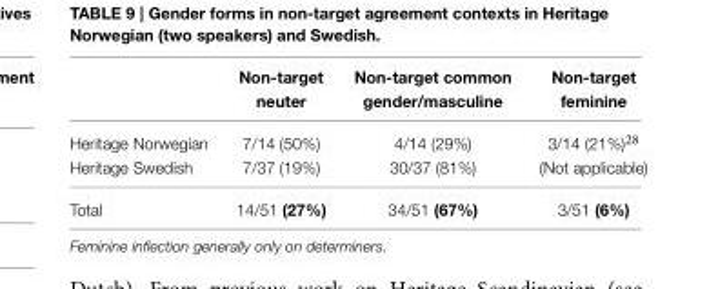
<table><thead><tr><td></td><td>Non-target neuter</td><td>Non-target common gender/masculine</td><td>Non-target feminine</td></tr></thead><tbody><tr><td>Heritage Norwegian</td><td>7/14 (50%)</td><td>4/14 (29%)</td><td>3/14 (21%)<sup>28</sup></td></tr><tr><td>Heritage Swedish</td><td>7/37 (19%)</td><td>30/37 (81%)</td><td>(Not applicable)</td></tr><tr><td>Total</td><td>14/51 (27%)</td><td>34/51 (67%)</td><td>3/51 (6%)</td></tr></tbody></table>